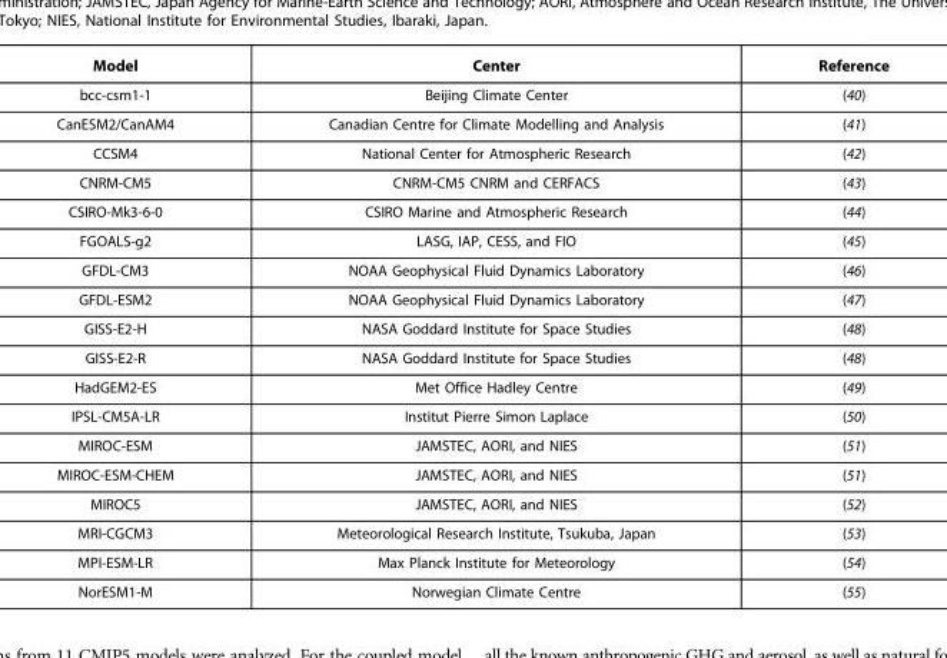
<table><thead><tr><td>Model</td><td>Center</td><td>Reference</td></tr></thead><tbody><tr><td>bcc-csm1-1</td><td>Beijing Climate Center</td><td>(40)</td></tr><tr><td>CanESM2/CanAM4</td><td>Canadian Centre for Climate Modelling and Analysis</td><td>(41)</td></tr><tr><td>CCSM4</td><td>National Center for Atmospheric Research</td><td>(42)</td></tr><tr><td>CNRM-CM5</td><td>CNRM-CM5 CNRM and CERFACS</td><td>(43)</td></tr><tr><td>CSIRO-Mk3-6-0</td><td>CSIRO Marine and Atmospheric Research</td><td>(44)</td></tr><tr><td>FGOALS-g2</td><td>LASG, IAP, CESS, and FIO</td><td>(45)</td></tr><tr><td>GFDL-CM3</td><td>NOAA Geophysical Fluid Dynamics Laboratory</td><td>(46)</td></tr><tr><td>GFDL-ESM2</td><td>NOAA Geophysical Fluid Dynamics Laboratory</td><td>(47)</td></tr><tr><td>GISS-E2-H</td><td>NASA Goddard Institute for Space Studies</td><td>(48)</td></tr><tr><td>GISS-E2-R</td><td>NASA Goddard Institute for Space Studies</td><td>(48)</td></tr><tr><td>HadGEM2-ES</td><td>Met Office Hadley Centre</td><td>(49)</td></tr><tr><td>IPSL-CM5A-LR</td><td>Institut Pierre Simon Laplace</td><td>(50)</td></tr><tr><td>MIROC-ESM</td><td>JAMSTEC, AORI, and NIES</td><td>(51)</td></tr><tr><td>MIROC-ESM-CHEM</td><td>JAMSTEC, AORI, and NIES</td><td>(51)</td></tr><tr><td>MIROC5</td><td>JAMSTEC, AORI, and NIES</td><td>(52)</td></tr><tr><td>MRI-CGCM3</td><td>Meteorological Research Institute, Tsukuba, Japan</td><td>(53)</td></tr><tr><td>MPI-ESM-LR</td><td>Max Planck Institute for Meteorology</td><td>(54)</td></tr><tr><td>NorESM1-M</td><td>Norwegian Climate Centre</td><td>(55)</td></tr></tbody></table>